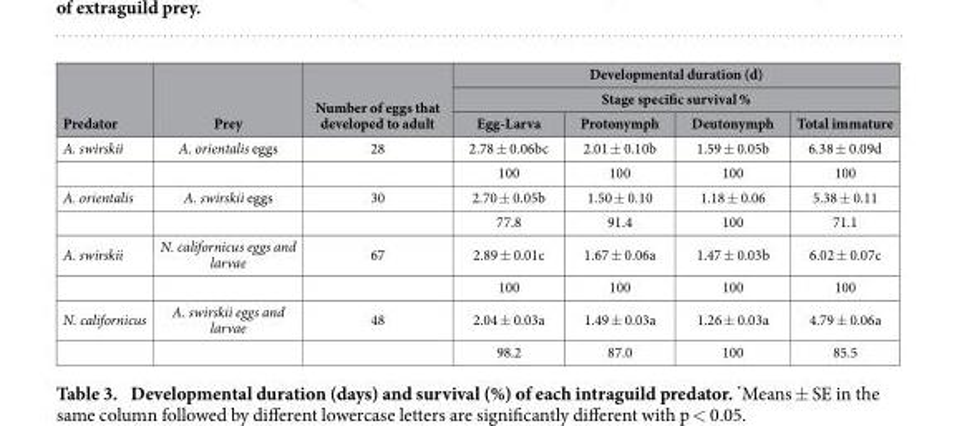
<table><thead><tr><td rowspan="3">Predator</td><td rowspan="3">Prey</td><td rowspan="3">Number of eggs that developed to adult</td><td rowspan="2" colspan="4">Developmental duration (d) Stage specific survival %</td></tr><tr></tr><tr><td>Egg-Larva</td><td>Protonymph</td><td>Deutonymph</td><td>Total immature</td></tr></thead><tbody><tr><td rowspan="2">A. swirskii</td><td>A. orientalis eggs</td><td>28</td><td>2.78 ± 0.06bc</td><td>2.01 ± 0.10b</td><td>1.59 ± 0.05b</td><td>6.38 ± 0.09d</td></tr><tr><td></td><td></td><td>100</td><td>100</td><td>100</td><td>100</td></tr><tr><td rowspan="2">A. orientalis</td><td>A. swirskii eggs</td><td>30</td><td>2.70 ± 0.05b</td><td>1.50 ± 0.10</td><td>1.18 ± 0.06</td><td>5.38 ± 0.11</td></tr><tr><td></td><td></td><td>77.8</td><td>91.4</td><td>100</td><td>71.1</td></tr><tr><td rowspan="2">A. swirskii</td><td>N. californicus eggs and larvae</td><td>67</td><td>2.89 ± 0.01c</td><td>1.67 ± 0.06a</td><td>1.47 ± 0.03b</td><td>6.02 ± 0.07c</td></tr><tr><td></td><td></td><td>100</td><td>100</td><td>100</td><td>100</td></tr><tr><td rowspan="2">N. californicus</td><td>A. swirskii eggs and larvae</td><td>48</td><td>2.04 ± 0.03a</td><td>1.49 ± 0.03a</td><td>1.26 ± 0.03a</td><td>4.79 ± 0.06a</td></tr><tr><td></td><td></td><td>98.2</td><td>87.0</td><td>100</td><td>85.5</td></tr></tbody></table>